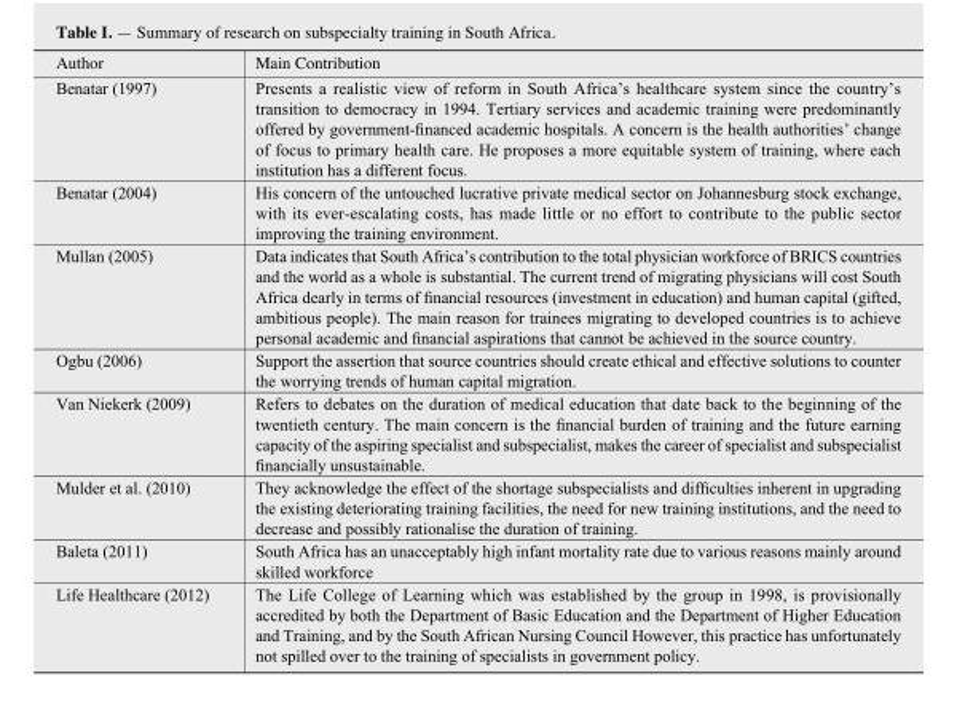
<table><thead><tr><td>Author</td><td>Main Contribution</td></tr></thead><tbody><tr><td>Benatar (1997)</td><td>Presents a realistic view of reform in South Africa’s healthcare system since the country’s transition to democracy in 1994. Tertiary services and academic training were predominantly offered by government-financed academic hospitals. A concern is the health authorities’ change of focus to primary health care. He proposes a more equitable system of training, where each institution has a different focus.</td></tr><tr><td>Benatar (2004)</td><td>His concern of the untouched lucrative private medical sector on Johannesburg stock exchange, with its ever-escalating costs, has made little or no effort to contribute to the public sector improving the training environment.</td></tr><tr><td>Mullan (2005)</td><td>Data indicates that South Africa’s contribution to the total physician workforce of BRICS countries and the world as a whole is substantial. The current trend of migrating physicians will cost South Africa dearly in terms of financial resources (investment in education) and human capital (gifted, ambitious people). The main reason for trainees migrating to developed countries is to achieve personal academic and financial aspirations that cannot be achieved in the source country.</td></tr><tr><td>Ogbu (2006)</td><td>Support the assertion that source countries should create ethical and effective solutions to counter the worrying trends of human capital migration.</td></tr><tr><td>Van Niekerk (2009)</td><td>Refers to debates on the duration of medical education that date back to the beginning of the twentieth century. The main concern is the financial burden of training and the future earning capacity of the aspiring specialist and subspecialist, makes the career of specialist and subspecialist financially unsustainable.</td></tr><tr><td>Mulder et al. (2010)</td><td>They acknowledge the effect of the shortage subspecialists and difficulties inherent in upgrading the existing deteriorating training facilities, the need for new training institutions, and the need to decrease and possibly rationalise the duration of training.</td></tr><tr><td>Baleta (2011)</td><td>South Africa has an unacceptably high infant mortality rate due to various reasons mainly around skilled workforce</td></tr><tr><td>Life Healthcare (2012)</td><td>The Life College of Learning which was established by the group in 1998, is provisionally accredited by both the Department of Basic Education and the Department of Higher Education and Training, and by the South African Nursing Council However, this practice has unfortunately not spilled over to the training of specialists in government policy.</td></tr></tbody></table>